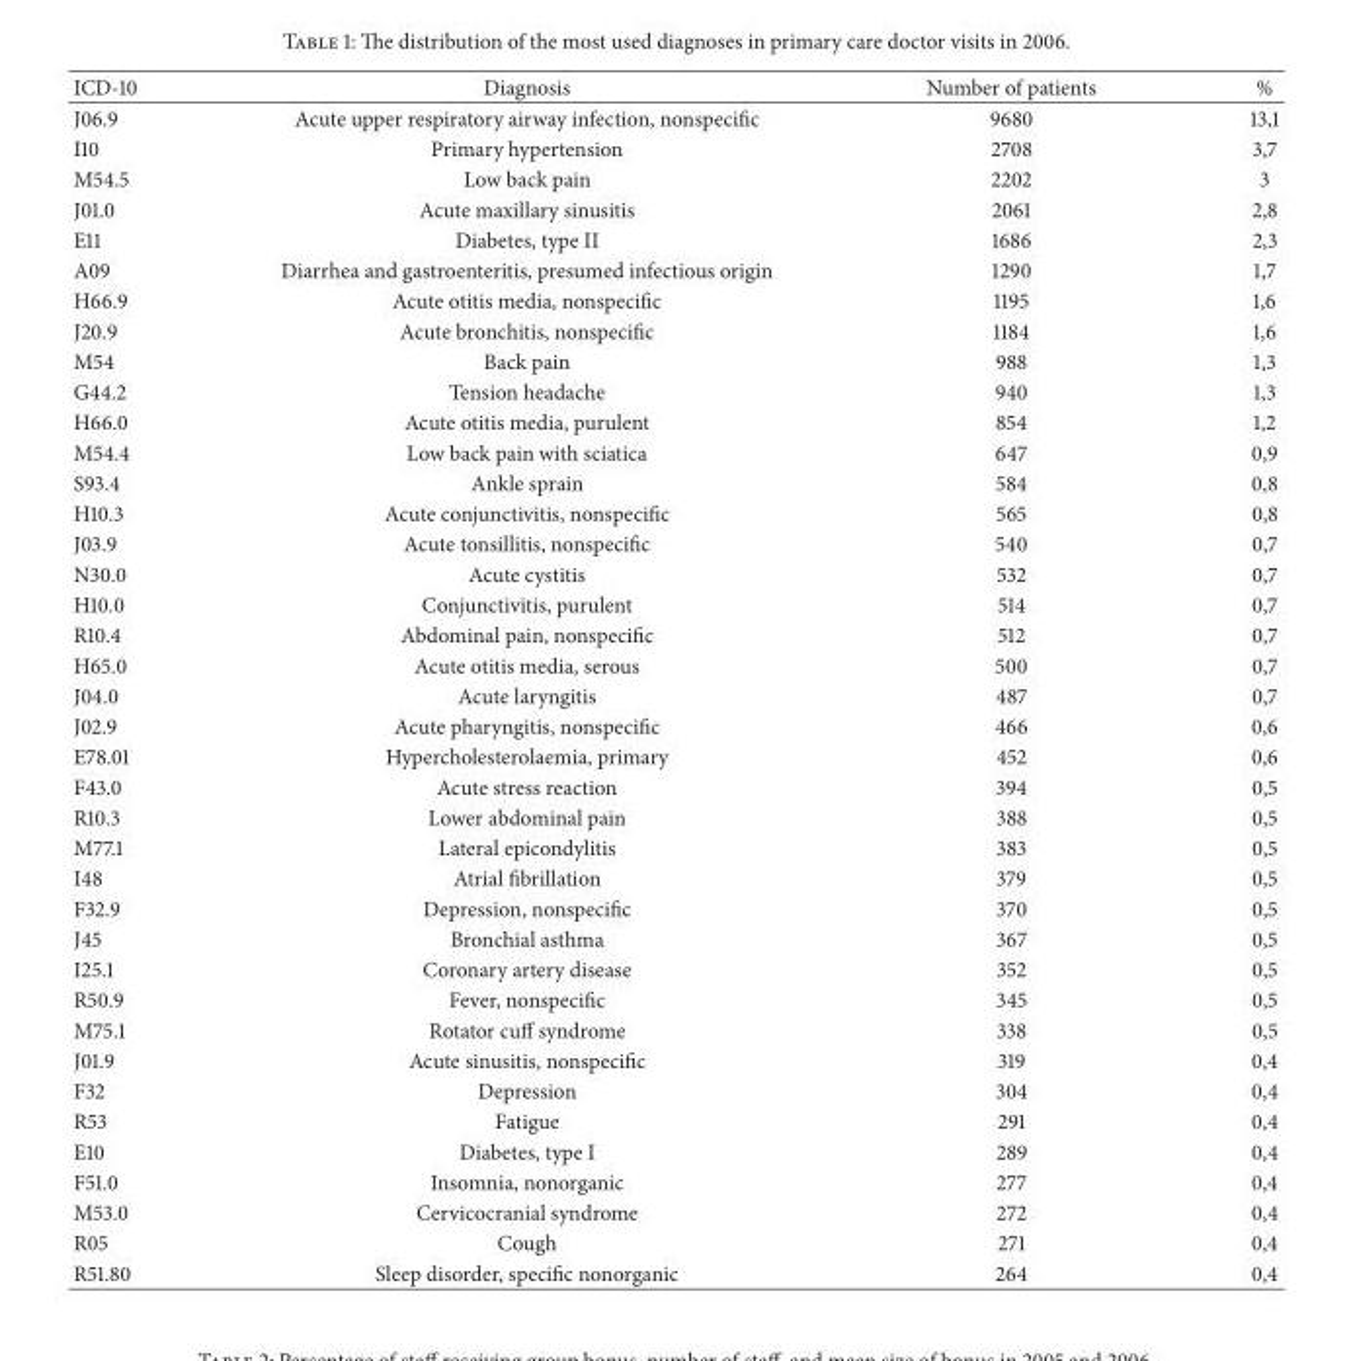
<table><thead><tr><td>ICD-10</td><td>Diagnosis</td><td>Number of patients</td><td>%</td></tr></thead><tbody><tr><td>J06.9</td><td>Acute upper respiratory airway infection, nonspecific</td><td>9680</td><td>13,1</td></tr><tr><td>I10</td><td>Primary hypertension</td><td>2708</td><td>3,7</td></tr><tr><td>M54.5</td><td>Low back pain</td><td>2202</td><td>3</td></tr><tr><td>J01.0</td><td>Acute maxillary sinusitis</td><td>2061</td><td>2,8</td></tr><tr><td>E11</td><td>Diabetes, type II</td><td>1686</td><td>2,3</td></tr><tr><td>A09</td><td>Diarrhea and gastroenteritis, presumed infectious origin</td><td>1290</td><td>1,7</td></tr><tr><td>H66.9</td><td>Acute otitis media, nonspecific</td><td>1195</td><td>1,6</td></tr><tr><td>J20.9</td><td>Acute bronchitis, nonspecific</td><td>1184</td><td>1,6</td></tr><tr><td>M54</td><td>Back pain</td><td>988</td><td>1,3</td></tr><tr><td>G44.2</td><td>Tension headache</td><td>940</td><td>1,3</td></tr><tr><td>H66.0</td><td>Acute otitis media, purulent</td><td>854</td><td>1,2</td></tr><tr><td>M54.4</td><td>Low back pain with sciatica</td><td>647</td><td>0,9</td></tr><tr><td>S93.4</td><td>Ankle sprain</td><td>584</td><td>0,8</td></tr><tr><td>H10.3</td><td>Acute conjunctivitis, nonspecific</td><td>565</td><td>0,8</td></tr><tr><td>J03.9</td><td>Acute tonsillitis, nonspecific</td><td>540</td><td>0,7</td></tr><tr><td>N30.0</td><td>Acute cystitis</td><td>532</td><td>0,7</td></tr><tr><td>H10.0</td><td>Conjunctivitis, purulent</td><td>514</td><td>0,7</td></tr><tr><td>R10.4</td><td>Abdominal pain, nonspecific</td><td>512</td><td>0,7</td></tr><tr><td>H65.0</td><td>Acute otitis media, serous</td><td>500</td><td>0,7</td></tr><tr><td>J04.0</td><td>Acute laryngitis</td><td>487</td><td>0,7</td></tr><tr><td>J02.9</td><td>Acute pharyngitis, nonspecific</td><td>466</td><td>0,6</td></tr><tr><td>E78.01</td><td>Hypercholesterolaemia, primary</td><td>452</td><td>0,6</td></tr><tr><td>F43.0</td><td>Acute stress reaction</td><td>394</td><td>0,5</td></tr><tr><td>R10.3</td><td>Lower abdominal pain</td><td>388</td><td>0,5</td></tr><tr><td>M77.1</td><td>Lateral epicondylitis</td><td>383</td><td>0,5</td></tr><tr><td>I48</td><td>Atrial fibrillation</td><td>379</td><td>0,5</td></tr><tr><td>F32.9</td><td>Depression, nonspecific</td><td>370</td><td>0,5</td></tr><tr><td>J45</td><td>Bronchial asthma</td><td>367</td><td>0,5</td></tr><tr><td>I25.1</td><td>Coronary artery disease</td><td>352</td><td>0,5</td></tr><tr><td>R50.9</td><td>Fever, nonspecific</td><td>345</td><td>0,5</td></tr><tr><td>M75.1</td><td>Rotator cuff syndrome</td><td>338</td><td>0,5</td></tr><tr><td>J01.9</td><td>Acute sinusitis, nonspecific</td><td>319</td><td>0,4</td></tr><tr><td>F32</td><td>Depression</td><td>304</td><td>0,4</td></tr><tr><td>R53</td><td>Fatigue</td><td>291</td><td>0,4</td></tr><tr><td>E10</td><td>Diabetes, type I</td><td>289</td><td>0,4</td></tr><tr><td>F51.0</td><td>Insomnia, nonorganic</td><td>277</td><td>0,4</td></tr><tr><td>M53.0</td><td>Cervicocranial syndrome</td><td>272</td><td>0,4</td></tr><tr><td>R05</td><td>Cough</td><td>271</td><td>0,4</td></tr><tr><td>R51.80</td><td>Sleep disorder, specific nonorganic</td><td>264</td><td>0,4</td></tr></tbody></table>